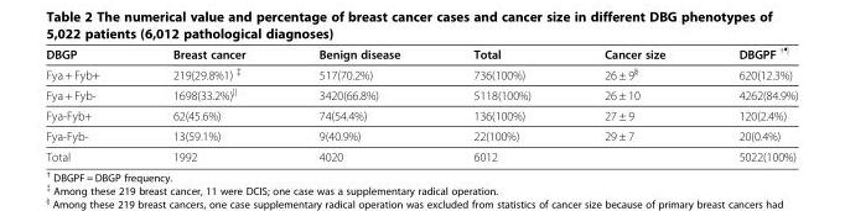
<table><thead><tr><td>DBGP</td><td>Breast cancer</td><td>Benign disease</td><td>Total</td><td>Cancer size</td><td>DBGPF <sup>†¶</sup></td></tr></thead><tbody><tr><td>Fya + Fyb+</td><td>219(29.8%1) <sup>‡</sup></td><td>517(70.2%)</td><td>736(100%)</td><td>26 ± 9<sup>§</sup></td><td>620(12.3%)</td></tr><tr><td>Fya + Fyb-</td><td>1698(33.2%)<sup>||</sup></td><td>3420(66.8%)</td><td>5118(100%)</td><td>26 ± 10</td><td>4262(84.9%)</td></tr><tr><td>Fya-Fyb+</td><td>62(45.6%)</td><td>74(54.4%)</td><td>136(100%)</td><td>27 ± 9</td><td>120(2.4%)</td></tr><tr><td>Fya-Fyb-</td><td>13(59.1%)</td><td>9(40.9%)</td><td>22(100%)</td><td>29 ± 7</td><td>20(0.4%)</td></tr><tr><td>Total</td><td>1992</td><td>4020</td><td>6012</td><td></td><td>5022(100%)</td></tr></tbody></table>